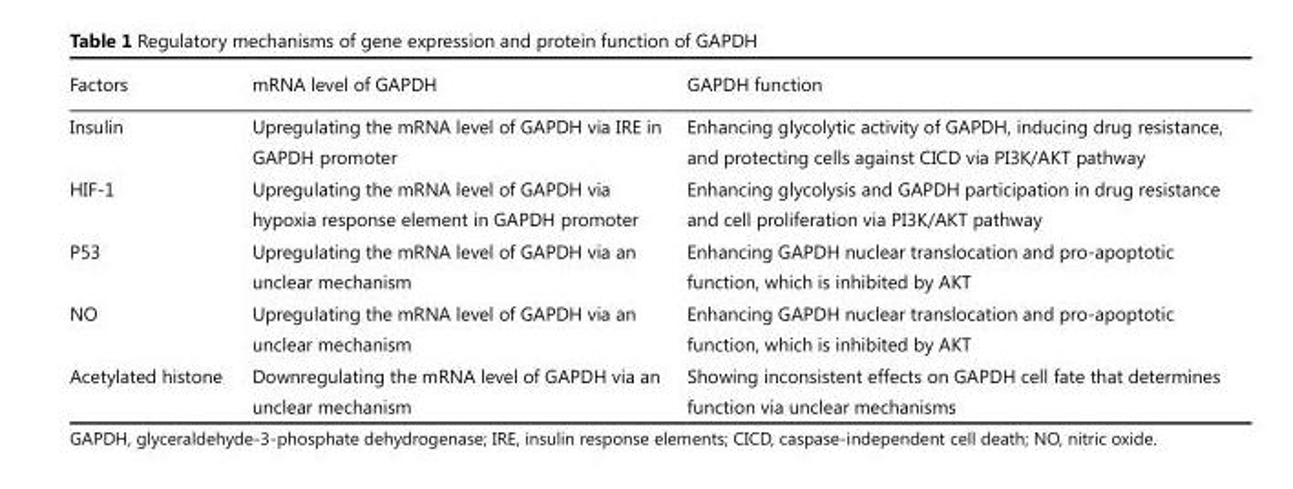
<table><thead><tr><td>Factors</td><td>mRNA level of GAPDH</td><td>GAPDH function</td></tr></thead><tbody><tr><td>Insulin</td><td>Upregulating the mRNA level of GAPDH via IRE in GAPDH promoter</td><td>Enhancing glycolytic activity of GAPDH, inducing drug resistance, and protecting cells against CICD via PI3K/AKT pathway</td></tr><tr><td>HIF-1</td><td>Upregulating the mRNA level of GAPDH via hypoxia response element in GAPDH promoter</td><td>Enhancing glycolysis and GAPDH participation in drug resistance and cell proliferation via PI3K/AKT pathway</td></tr><tr><td>P53</td><td>Upregulating the mRNA level of GAPDH via an unclear mechanism</td><td>Enhancing GAPDH nuclear translocation and pro-apoptotic function, which is inhibited by AKT</td></tr><tr><td>NO</td><td>Upregulating the mRNA level of GAPDH via an unclear mechanism</td><td>Enhancing GAPDH nuclear translocation and pro-apoptotic function, which is inhibited by AKT</td></tr><tr><td>Acetylated histone</td><td>Downregulating the mRNA level of GAPDH via an unclear mechanism</td><td>Showing inconsistent effects on GAPDH cell fate that determines function via unclear mechanisms</td></tr></tbody></table>